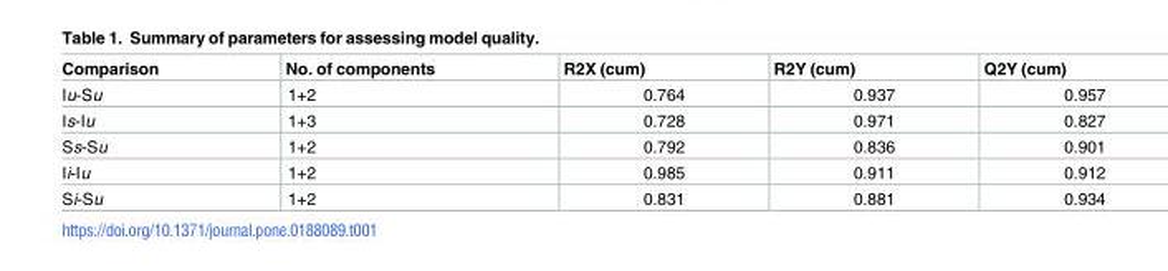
<table><thead><tr><td>Comparison</td><td>No. of components</td><td>R2X (cum)</td><td>R2Y (cum)</td><td>Q2Y (cum)</td></tr></thead><tbody><tr><td>Iu-Su</td><td>1+2</td><td>0.764</td><td>0.937</td><td>0.957</td></tr><tr><td>Is-Iu</td><td>1+3</td><td>0.728</td><td>0.971</td><td>0.827</td></tr><tr><td>Ss-Su</td><td>1+2</td><td>0.792</td><td>0.836</td><td>0.901</td></tr><tr><td>Ii-Iu</td><td>1+2</td><td>0.985</td><td>0.911</td><td>0.912</td></tr><tr><td>Si-Su</td><td>1+2</td><td>0.831</td><td>0.881</td><td>0.934</td></tr></tbody></table>